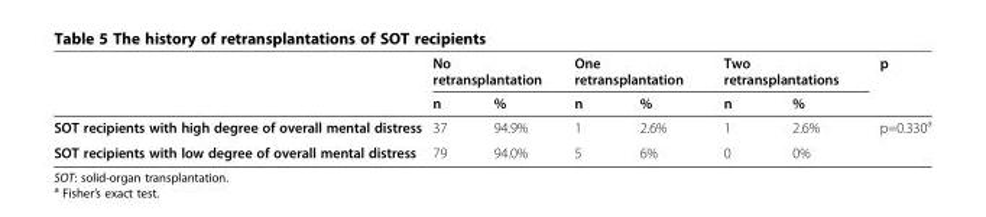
<table><thead><tr><td rowspan="2"></td><td colspan="2">No retransplantation</td><td colspan="2">One retransplantation</td><td colspan="2">Two retransplantations</td><td rowspan="2">p</td></tr><tr><td>n</td><td>%</td><td>n</td><td>%</td><td>n</td><td>%</td></tr></thead><tbody><tr><td>SOT recipients with high degree of overall mental distress</td><td>37</td><td>94.9%</td><td>1</td><td>2.6%</td><td>1</td><td>2.6%</td><td>p=0.330<sup>a</sup></td></tr><tr><td>SOT recipients with low degree of overall mental distress</td><td>79</td><td>94.0%</td><td>5</td><td>6%</td><td>0</td><td>0%</td><td></td></tr></tbody></table>